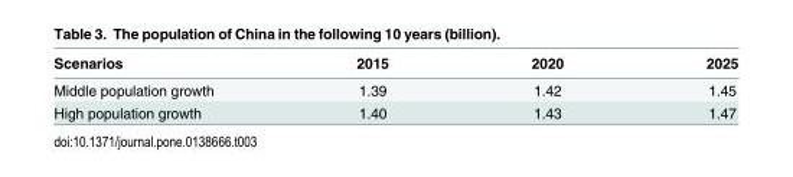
<table><thead><tr><td>Scenarios</td><td>2015</td><td>2020</td><td>2025</td></tr></thead><tbody><tr><td>Middle population growth</td><td>1.39</td><td>1.42</td><td>1.45</td></tr><tr><td>High population growth</td><td>1.40</td><td>1.43</td><td>1.47</td></tr></tbody></table>